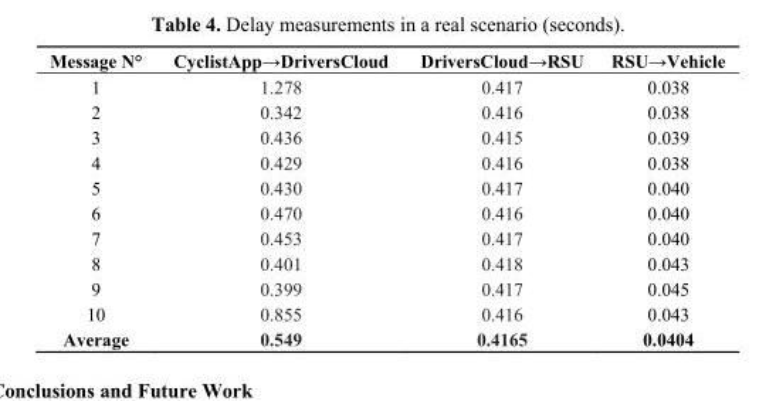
<table><thead><tr><td>Message N°</td><td>CyclistApp→DriversCloud</td><td>DriversCloud→RSU</td><td>RSU→Vehicle</td></tr></thead><tbody><tr><td>1</td><td>1.278</td><td>0.417</td><td>0.038</td></tr><tr><td>2</td><td>0.342</td><td>0.416</td><td>0.038</td></tr><tr><td>3</td><td>0.436</td><td>0.415</td><td>0.039</td></tr><tr><td>4</td><td>0.429</td><td>0.416</td><td>0.038</td></tr><tr><td>5</td><td>0.430</td><td>0.417</td><td>0.040</td></tr><tr><td>6</td><td>0.470</td><td>0.416</td><td>0.040</td></tr><tr><td>7</td><td>0.453</td><td>0.417</td><td>0.040</td></tr><tr><td>8</td><td>0.401</td><td>0.418</td><td>0.043</td></tr><tr><td>9</td><td>0.399</td><td>0.417</td><td>0.045</td></tr><tr><td>10</td><td>0.855</td><td>0.416</td><td>0.043</td></tr><tr><td>Average</td><td>0.549</td><td>0.4165</td><td>0.0404</td></tr></tbody></table>